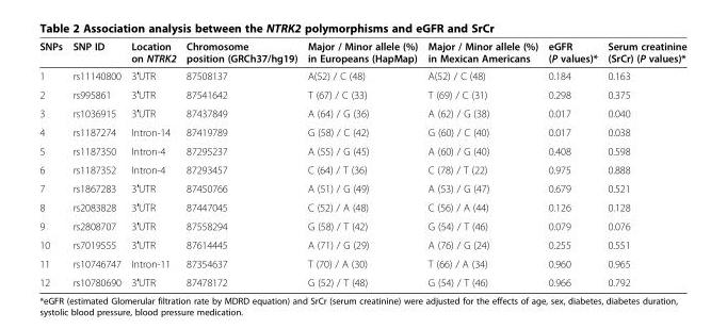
<table><thead><tr><td>SNPs</td><td>SNP ID</td><td>Location on NTRK2</td><td>Chromosome position (GRCh37/hg19)</td><td>Major / Minor allele (%) in Europeans (HapMap)</td><td>Major / Minor allele (%) in Mexican Americans</td><td>eGFR (P values)*</td><td>Serum creatinine (SrCr) (P values)*</td></tr></thead><tbody><tr><td>1</td><td>rs11140800</td><td>3′UTR</td><td>87508137</td><td>A(52) / C (48)</td><td>A(52) / C (48)</td><td>0.184</td><td>0.163</td></tr><tr><td>2</td><td>rs995861</td><td>3′UTR</td><td>87541642</td><td>T (67) / C (33)</td><td>T (69) / C (31)</td><td>0.298</td><td>0.375</td></tr><tr><td>3</td><td>rs1036915</td><td>3′UTR</td><td>87437849</td><td>A (64) / G (36)</td><td>A (62) / G (38)</td><td>0.017</td><td>0.040</td></tr><tr><td>4</td><td>rs1187274</td><td>Intron-14</td><td>87419789</td><td>G (58) / C (42)</td><td>G (60) / C (40)</td><td>0.017</td><td>0.038</td></tr><tr><td>5</td><td>rs1187350</td><td>Intron-4</td><td>87295237</td><td>A (55) / G (45)</td><td>A (60) / G (40)</td><td>0.408</td><td>0.598</td></tr><tr><td>6</td><td>rs1187352</td><td>Intron-4</td><td>87293457</td><td>C (64) / T (36)</td><td>C (78) / T (22)</td><td>0.975</td><td>0.888</td></tr><tr><td>7</td><td>rs1867283</td><td>3′UTR</td><td>87450766</td><td>A (51) / G (49)</td><td>A (53) / G (47)</td><td>0.679</td><td>0.521</td></tr><tr><td>8</td><td>rs2083828</td><td>3′UTR</td><td>87447045</td><td>C (52) / A (48)</td><td>C (56) / A (44)</td><td>0.126</td><td>0.128</td></tr><tr><td>9</td><td>rs2808707</td><td>3′UTR</td><td>87558294</td><td>G (58) / T (42)</td><td>G (54) / T (46)</td><td>0.079</td><td>0.076</td></tr><tr><td>10</td><td>rs7019555</td><td>3′UTR</td><td>87614445</td><td>A (71) / G (29)</td><td>A (76) / G (24)</td><td>0.255</td><td>0.551</td></tr><tr><td>11</td><td>rs10746747</td><td>Intron-11</td><td>87354637</td><td>T (70) / A (30)</td><td>T (66) / A (34)</td><td>0.960</td><td>0.965</td></tr><tr><td>12</td><td>rs10780690</td><td>3′UTR</td><td>87478172</td><td>G (52) / T (48)</td><td>G (54) / T (46)</td><td>0.966</td><td>0.792</td></tr></tbody></table>